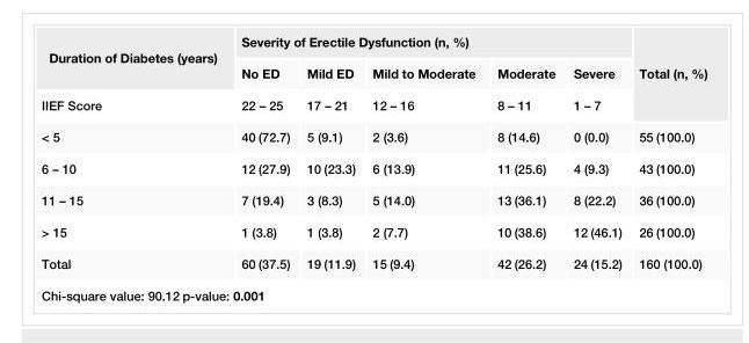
<table><tbody><tr><td rowspan="2">Duration of Diabetes (years)</td><td colspan="5">Severity of Erectile Dysfunction (n, %)</td><td rowspan="3">Total (n, %)</td></tr><tr><td>No ED</td><td>Mild ED</td><td>Mild to Moderate</td><td>Moderate</td><td>Severe</td></tr><tr><td>IIEF Score</td><td>22 – 25</td><td>17 – 21</td><td>12 – 16</td><td>8 – 11</td><td>1 – 7</td></tr><tr><td>&lt; 5</td><td>40 (72.7)</td><td>5 (9.1)</td><td>2 (3.6)</td><td>8 (14.6)</td><td>0 (0.0)</td><td>55 (100.0)</td></tr><tr><td>6 – 10</td><td>12 (27.9)</td><td>10 (23.3)</td><td>6 (13.9)</td><td>11 (25.6)</td><td>4 (9.3)</td><td>43 (100.0)</td></tr><tr><td>11 – 15</td><td>7 (19.4)</td><td>3 (8.3)</td><td>5 (14.0)</td><td>13 (36.1)</td><td>8 (22.2)</td><td>36 (100.0)</td></tr><tr><td>&gt; 15</td><td>1 (3.8)</td><td>1 (3.8)</td><td>2 (7.7)</td><td>10 (38.6)</td><td>12 (46.1)</td><td>26 (100.0)</td></tr><tr><td>Total</td><td>60 (37.5)</td><td>19 (11.9)</td><td>15 (9.4)</td><td>42 (26.2)</td><td>24 (15.2)</td><td>160 (100.0)</td></tr><tr><td colspan="7">Chi-square value: 90.12 p-value: 0.001</td></tr></tbody></table>